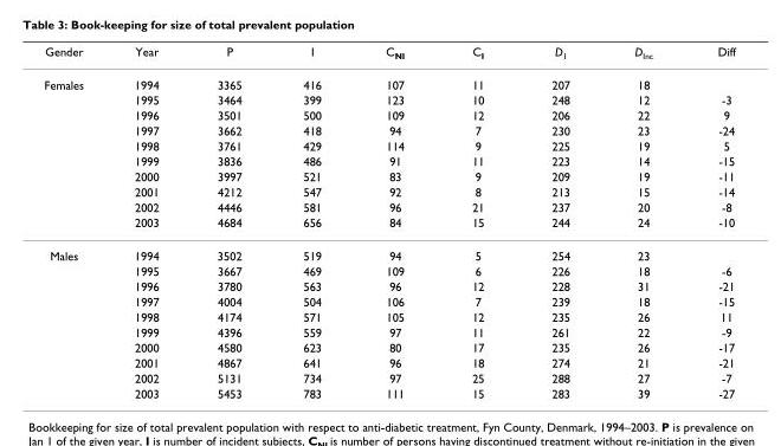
<table><thead><tr><td>Gender</td><td>Year</td><td>P</td><td>I</td><td>C<sub>NI</sub></td><td>C<sub>I</sub></td><td>D<sub>1</sub></td><td>D<sub>Inc</sub></td><td>Diff</td></tr></thead><tbody><tr><td rowspan="10">Females</td><td>1994</td><td>3365</td><td>416</td><td>107</td><td>11</td><td>207</td><td>18</td><td></td></tr><tr><td>1995</td><td>3464</td><td>399</td><td>123</td><td>10</td><td>248</td><td>12</td><td>-3</td></tr><tr><td>1996</td><td>3501</td><td>500</td><td>109</td><td>12</td><td>206</td><td>22</td><td>9</td></tr><tr><td>1997</td><td>3662</td><td>418</td><td>94</td><td>7</td><td>230</td><td>23</td><td>-24</td></tr><tr><td>1998</td><td>3761</td><td>429</td><td>114</td><td>9</td><td>225</td><td>19</td><td>5</td></tr><tr><td>1999</td><td>3836</td><td>486</td><td>91</td><td>11</td><td>223</td><td>14</td><td>-15</td></tr><tr><td>2000</td><td>3997</td><td>521</td><td>83</td><td>9</td><td>209</td><td>19</td><td>-11</td></tr><tr><td>2001</td><td>4212</td><td>547</td><td>92</td><td>8</td><td>213</td><td>15</td><td>-14</td></tr><tr><td>2002</td><td>4446</td><td>581</td><td>96</td><td>21</td><td>237</td><td>20</td><td>-8</td></tr><tr><td>2003</td><td>4684</td><td>656</td><td>84</td><td>15</td><td>244</td><td>24</td><td>-10</td></tr><tr><td rowspan="10">Males</td><td>1994</td><td>3502</td><td>519</td><td>94</td><td>5</td><td>254</td><td>23</td><td></td></tr><tr><td>1995</td><td>3667</td><td>469</td><td>109</td><td>6</td><td>226</td><td>18</td><td>-6</td></tr><tr><td>1996</td><td>3780</td><td>563</td><td>96</td><td>12</td><td>228</td><td>31</td><td>-21</td></tr><tr><td>1997</td><td>4004</td><td>504</td><td>106</td><td>7</td><td>239</td><td>18</td><td>-15</td></tr><tr><td>1998</td><td>4174</td><td>571</td><td>105</td><td>12</td><td>235</td><td>26</td><td>11</td></tr><tr><td>1999</td><td>4396</td><td>559</td><td>97</td><td>11</td><td>261</td><td>22</td><td>-9</td></tr><tr><td>2000</td><td>4580</td><td>623</td><td>80</td><td>17</td><td>235</td><td>26</td><td>-17</td></tr><tr><td>2001</td><td>4867</td><td>641</td><td>96</td><td>18</td><td>274</td><td>21</td><td>-21</td></tr><tr><td>2002</td><td>5131</td><td>734</td><td>97</td><td>25</td><td>288</td><td>27</td><td>-7</td></tr><tr><td>2003</td><td>5453</td><td>783</td><td>111</td><td>15</td><td>283</td><td>39</td><td>-27</td></tr></tbody></table>